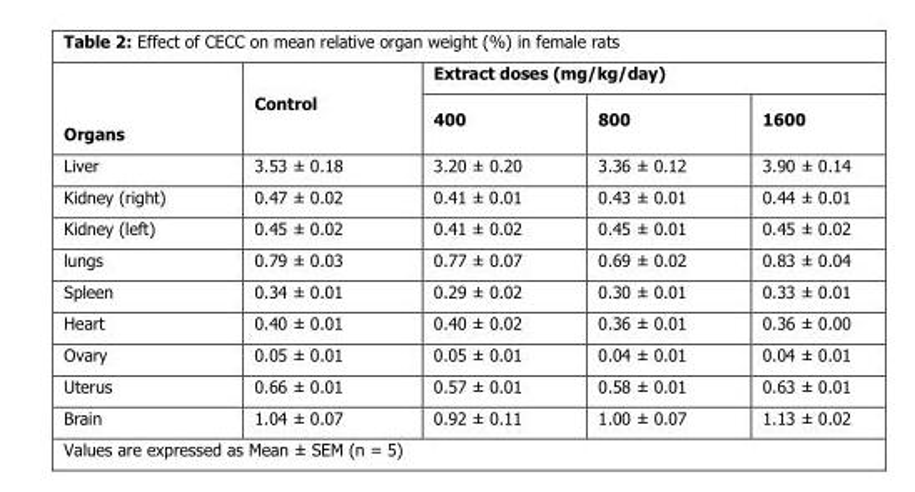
<table><thead><tr><td rowspan="2">Organs</td><td rowspan="2">Control</td><td colspan="3">Extract doses (mg/kg/day)</td></tr><tr><td>400</td><td>800</td><td>1600</td></tr></thead><tbody><tr><td>Liver</td><td>3.53 ± 0.18</td><td>3.20 ± 0.20</td><td>3.36 ± 0.12</td><td>3.90 ± 0.14</td></tr><tr><td>Kidney (right)</td><td>0.47 ± 0.02</td><td>0.41 ± 0.01</td><td>0.43 ± 0.01</td><td>0.44 ± 0.01</td></tr><tr><td>Kidney (left)</td><td>0.45 ± 0.02</td><td>0.41 ± 0.02</td><td>0.45 ± 0.01</td><td>0.45 ± 0.02</td></tr><tr><td>lungs</td><td>0.79 ± 0.03</td><td>0.77 ± 0.07</td><td>0.69 ± 0.02</td><td>0.83 ± 0.04</td></tr><tr><td>Spleen</td><td>0.34 ± 0.01</td><td>0.29 ± 0.02</td><td>0.30 ± 0.01</td><td>0.33 ± 0.01</td></tr><tr><td>Heart</td><td>0.40 ± 0.01</td><td>0.40 ± 0.02</td><td>0.36 ± 0.01</td><td>0.36 ± 0.00</td></tr><tr><td>Ovary</td><td>0.05 ± 0.01</td><td>0.05 ± 0.01</td><td>0.04 ± 0.01</td><td>0.04 ± 0.01</td></tr><tr><td>Uterus</td><td>0.66 ± 0.01</td><td>0.57 ± 0.01</td><td>0.58 ± 0.01</td><td>0.63 ± 0.01</td></tr><tr><td>Brain</td><td>1.04 ± 0.07</td><td>0.92 ± 0.11</td><td>1.00 ± 0.07</td><td>1.13 ± 0.02</td></tr></tbody></table>